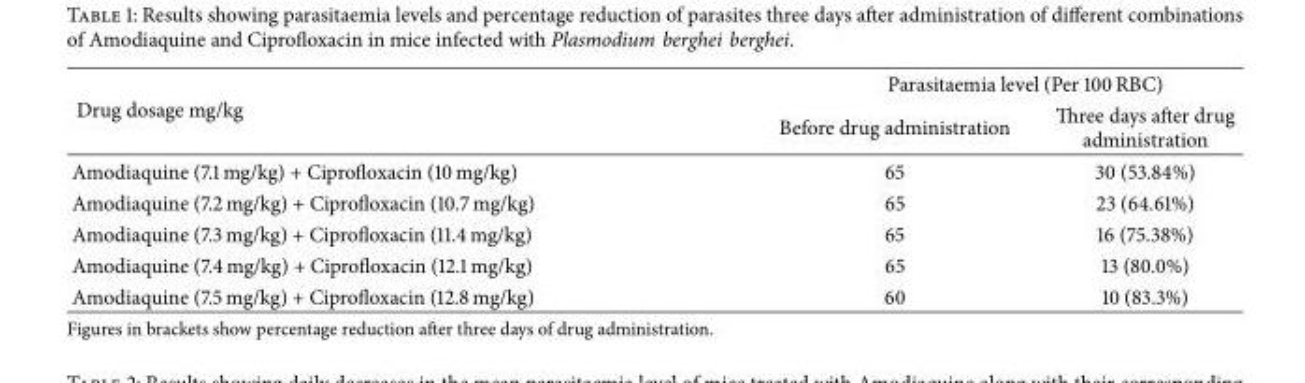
<table><thead><tr><td rowspan="2">Drug dosage mg/kg</td><td colspan="2">Parasitaemia level (Per 100 RBC)</td></tr><tr><td>Before drug administration</td><td>Three days after drug administration</td></tr></thead><tbody><tr><td>Amodiaquine (7.1 mg/kg) + Ciprofloxacin (10 mg/kg)</td><td>65</td><td>30 (53.84%)</td></tr><tr><td>Amodiaquine (7.2 mg/kg) + Ciprofloxacin (10.7 mg/kg)</td><td>65</td><td>23 (64.61%)</td></tr><tr><td>Amodiaquine (7.3 mg/kg) + Ciprofloxacin (11.4 mg/kg)</td><td>65</td><td>16 (75.38%)</td></tr><tr><td>Amodiaquine (7.4 mg/kg) + Ciprofloxacin (12.1 mg/kg)</td><td>65</td><td>13 (80.0%)</td></tr><tr><td>Amodiaquine (7.5 mg/kg) + Ciprofloxacin (12.8 mg/kg)</td><td>60</td><td>10 (83.3%)</td></tr></tbody></table>